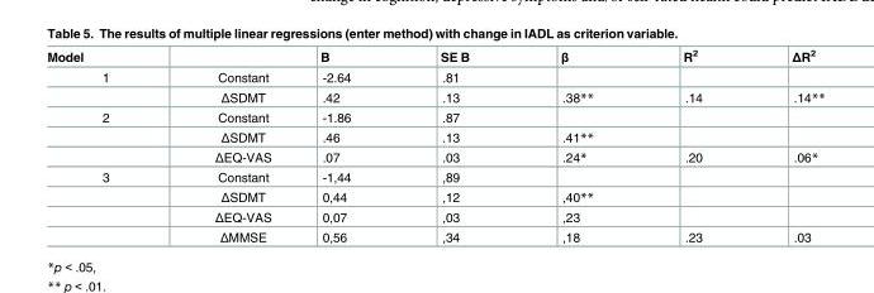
<table><thead><tr><td>Model</td><td></td><td>B</td><td>SE B</td><td>β</td><td>R<sup>2</sup></td><td>ΔR<sup>2</sup></td></tr></thead><tbody><tr><td rowspan="2">1</td><td>Constant</td><td>-2.64</td><td>.81</td><td></td><td></td><td></td></tr><tr><td>ΔSDMT</td><td>.42</td><td>.13</td><td>.38**</td><td>.14</td><td>.14**</td></tr><tr><td rowspan="3">2</td><td>Constant</td><td>-1.86</td><td>.87</td><td></td><td></td><td></td></tr><tr><td>ΔSDMT</td><td>.46</td><td>.13</td><td>.41**</td><td></td><td></td></tr><tr><td>ΔEQ-VAS</td><td>.07</td><td>.03</td><td>.24*</td><td>.20</td><td>.06*</td></tr><tr><td rowspan="4">3</td><td>Constant</td><td>-1,44</td><td>,89</td><td></td><td></td><td></td></tr><tr><td>ΔSDMT</td><td>0,44</td><td>,12</td><td>,40**</td><td></td><td></td></tr><tr><td>ΔEQ-VAS</td><td>0,07</td><td>,03</td><td>,23</td><td></td><td></td></tr><tr><td>ΔMMSE</td><td>0,56</td><td>,34</td><td>,18</td><td>.23</td><td>.03</td></tr></tbody></table>